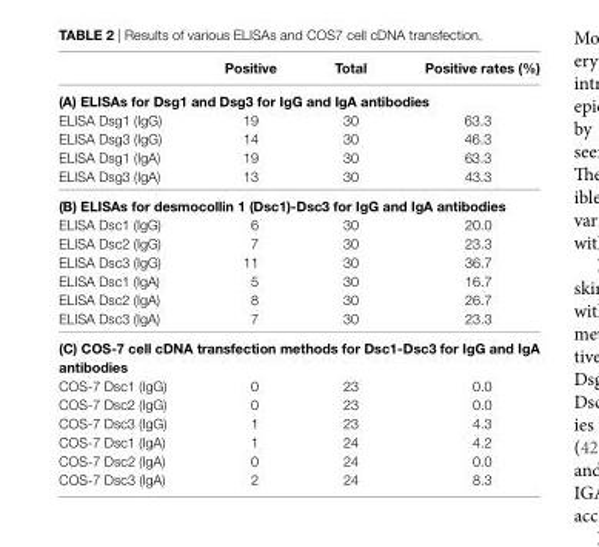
<table><thead><tr><td></td><td>positive</td><td>total</td><td>positive rates (%)</td></tr></thead><tbody><tr><td colspan="4">(a) eLIsas for Dsg1 and Dsg3 for IgG and Iga antibodies</td></tr><tr><td>ELISA Dsg1 (IgG)</td><td>19</td><td>30</td><td>63.3</td></tr><tr><td>ELISA Dsg3 (IgG)</td><td>14</td><td>30</td><td>46.3</td></tr><tr><td>ELISA Dsg1 (IgA)</td><td>19</td><td>30</td><td>63.3</td></tr><tr><td>ELISA Dsg3 (IgA)</td><td>13</td><td>30</td><td>43.3</td></tr><tr><td colspan="4">(B) eLIsas for desmocollin 1 (Dsc1)-Dsc3 for IgG and Iga antibodies</td></tr><tr><td>ELISA Dsc1 (IgG)</td><td>6</td><td>30</td><td>20.0</td></tr><tr><td>ELISA Dsc2 (IgG)</td><td>7</td><td>30</td><td>23.3</td></tr><tr><td>ELISA Dsc3 (IgG)</td><td>11</td><td>30</td><td>36.7</td></tr><tr><td>ELISA Dsc1 (IgA)</td><td>5</td><td>30</td><td>16.7</td></tr><tr><td>ELISA Dsc2 (IgA)</td><td>8</td><td>30</td><td>26.7</td></tr><tr><td>ELISA Dsc3 (IgA)</td><td>7</td><td>30</td><td>23.3</td></tr><tr><td colspan="4">(C) Cos-7 cell cDNa transfection methods for Dsc1-Dsc3 for IgG and Iga antibodies</td></tr><tr><td>COS-7 Dsc1 (IgG)</td><td>0</td><td>23</td><td>0.0</td></tr><tr><td>COS-7 Dsc2 (IgG)</td><td>0</td><td>23</td><td>0.0</td></tr><tr><td>COS-7 Dsc3 (IgG)</td><td>1</td><td>23</td><td>4.3</td></tr><tr><td>COS-7 Dsc1 (IgA)</td><td>1</td><td>24</td><td>4.2</td></tr><tr><td>COS-7 Dsc2 (IgA)</td><td>0</td><td>24</td><td>0.0</td></tr><tr><td>COS-7 Dsc3 (IgA)</td><td>2</td><td>24</td><td>8.3</td></tr></tbody></table>